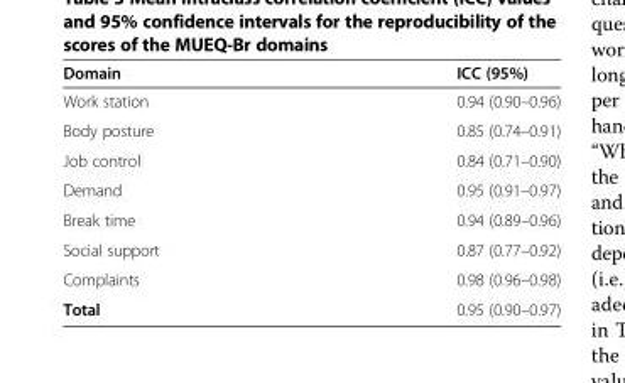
<table><thead><tr><td>Domain</td><td>ICC (95%)</td></tr></thead><tbody><tr><td>Work station</td><td>0.94 (0.90–0.96)</td></tr><tr><td>Body posture</td><td>0.85 (0.74–0.91)</td></tr><tr><td>Job control</td><td>0.84 (0.71–0.90)</td></tr><tr><td>Demand</td><td>0.95 (0.91–0.97)</td></tr><tr><td>Break time</td><td>0.94 (0.89–0.96)</td></tr><tr><td>Social support</td><td>0.87 (0.77–0.92)</td></tr><tr><td>Complaints</td><td>0.98 (0.96–0.98)</td></tr><tr><td>Total</td><td>0.95 (0.90–0.97)</td></tr></tbody></table>